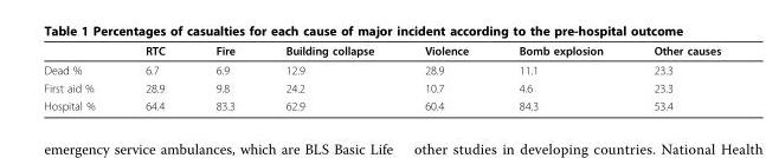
<table><thead><tr><td></td><td>RTC</td><td>Fire</td><td>Building collapse</td><td>Violence</td><td>Bomb explosion</td><td>Other causes</td></tr></thead><tbody><tr><td>Dead %</td><td>6.7</td><td>6.9</td><td>12.9</td><td>28.9</td><td>11.1</td><td>23.3</td></tr><tr><td>First aid %</td><td>28.9</td><td>9.8</td><td>24.2</td><td>10.7</td><td>4.6</td><td>23.3</td></tr><tr><td>Hospital %</td><td>64.4</td><td>83.3</td><td>62.9</td><td>60.4</td><td>84.3</td><td>53.4</td></tr></tbody></table>